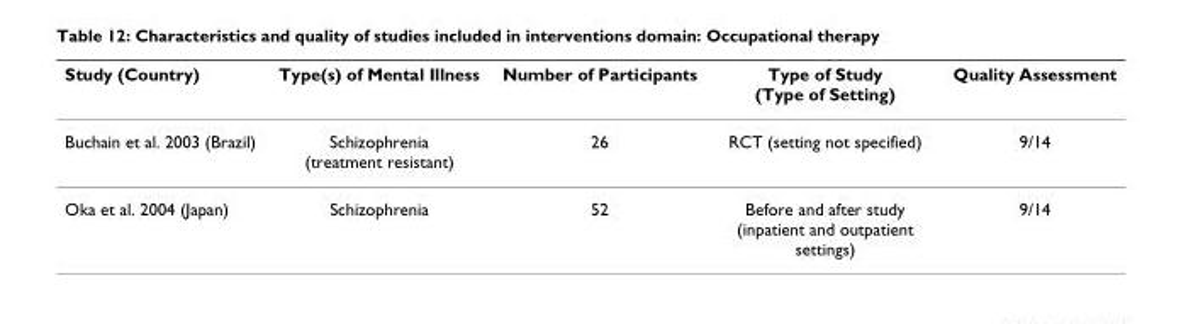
<table><thead><tr><td>Study (Country)</td><td>Type(s) of Mental Illness</td><td>Number of Participants</td><td>Type of Study (Type of Setting)</td><td>Quality Assessment</td></tr></thead><tbody><tr><td>Buchain et al. 2003 (Brazil)</td><td>Schizophrenia (treatment resistant)</td><td>26</td><td>RCT (setting not specified)</td><td>9/14</td></tr><tr><td>Oka et al. 2004 (Japan)</td><td>Schizophrenia</td><td>52</td><td>Before and after study (inpatient and outpatient settings)</td><td>9/14</td></tr></tbody></table>